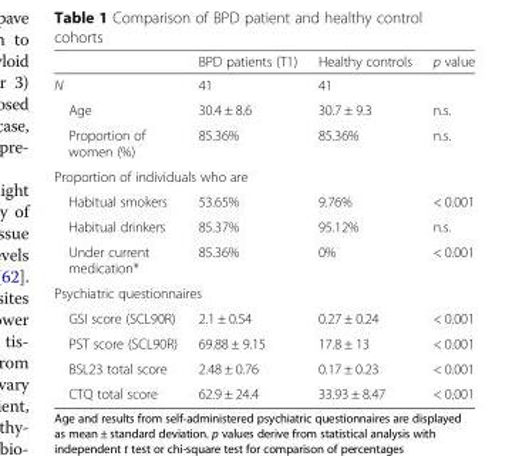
<table><thead><tr><td></td><td>BPD patients (T1)</td><td>Healthy controls</td><td>p value</td></tr></thead><tbody><tr><td>N</td><td>41</td><td>41</td><td></td></tr><tr><td>Age</td><td>30.4 ± 8.6</td><td>30.7 ± 9.3</td><td>n.s.</td></tr><tr><td>Proportion of women (%)</td><td>85.36%</td><td>85.36%</td><td>n.s.</td></tr><tr><td colspan="4">Proportion of individuals who are</td></tr><tr><td>Habitual smokers</td><td>53.65%</td><td>9.76%</td><td>&lt; 0.001</td></tr><tr><td>Habitual drinkers</td><td>85.37%</td><td>95.12%</td><td>n.s.</td></tr><tr><td>Under current medication*</td><td>85.36%</td><td>0%</td><td>&lt; 0.001</td></tr><tr><td colspan="4">Psychiatric questionnaires</td></tr><tr><td>GSI score (SCL90R)</td><td>2.1 ± 0.54</td><td>0.27 ± 0.24</td><td>&lt; 0.001</td></tr><tr><td>PST score (SCL90R)</td><td>69.88 ± 9.15</td><td>17.8 ± 13</td><td>&lt; 0.001</td></tr><tr><td>BSL23 total score</td><td>2.48 ± 0.76</td><td>0.17 ± 0.23</td><td>&lt; 0.001</td></tr><tr><td>CTQ total score</td><td>62.9 ± 24.4</td><td>33.93 ± 8.47</td><td>&lt; 0.001</td></tr></tbody></table>